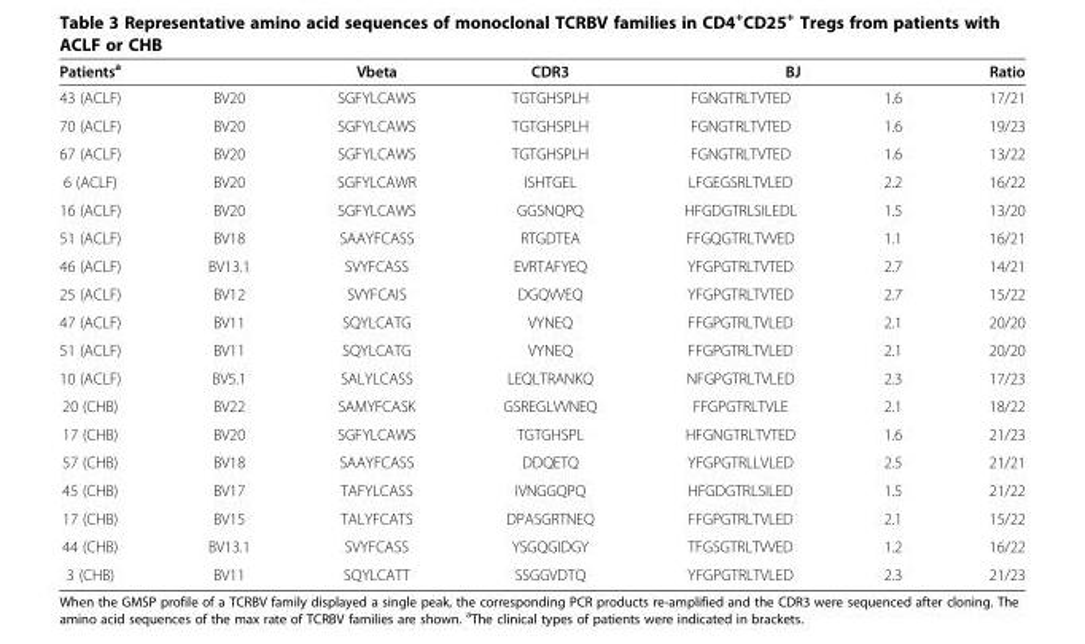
<table><thead><tr><td rowspan="2">Patients<sup>a</sup> 43 (ACLF)</td><td rowspan="2">BV20</td><td rowspan="2">Vbeta SGFYLCAWS</td><td rowspan="2">CDR3 TGTGHSPLH</td><td colspan="2">BJ</td><td rowspan="2">Ratio 17/21</td></tr><tr><td>FGNGTRLTVTED</td><td>1.6</td></tr></thead><tbody><tr><td>70 (ACLF)</td><td>BV20</td><td>SGFYLCAWS</td><td>TGTGHSPLH</td><td>FGNGTRLTVTED</td><td>1.6</td><td>19/23</td></tr><tr><td>67 (ACLF)</td><td>BV20</td><td>SGFYLCAWS</td><td>TGTGHSPLH</td><td>FGNGTRLTVTED</td><td>1.6</td><td>13/22</td></tr><tr><td>6 (ACLF)</td><td>BV20</td><td>SGFYLCAWR</td><td>ISHTGEL</td><td>LFGEGSRLTVLED</td><td>2.2</td><td>16/22</td></tr><tr><td>16 (ACLF)</td><td>BV20</td><td>SGFYLCAWS</td><td>GGSNQPQ</td><td>HFGDGTRLSILEDL</td><td>1.5</td><td>13/20</td></tr><tr><td>51 (ACLF)</td><td>BV18</td><td>SAAYFCASS</td><td>RTGDTEA</td><td>FFGQGTRLTVVED</td><td>1.1</td><td>16/21</td></tr><tr><td>46 (ACLF)</td><td>BV13.1</td><td>SVYFCASS</td><td>EVRTAFYEQ</td><td>YFGPGTRLTVTED</td><td>2.7</td><td>14/21</td></tr><tr><td>25 (ACLF)</td><td>BV12</td><td>SVYFCAIS</td><td>DGQVVEQ</td><td>YFGPGTRLTVTED</td><td>2.7</td><td>15/22</td></tr><tr><td>47 (ACLF)</td><td>BV11</td><td>SQYLCATG</td><td>VYNEQ</td><td>FFGPGTRLTVLED</td><td>2.1</td><td>20/20</td></tr><tr><td>51 (ACLF)</td><td>BV11</td><td>SQYLCATG</td><td>VYNEQ</td><td>FFGPGTRLTVLED</td><td>2.1</td><td>20/20</td></tr><tr><td>10 (ACLF)</td><td>BV5.1</td><td>SALYLCASS</td><td>LEQLTRANKQ</td><td>NFGPGTRLTVLED</td><td>2.3</td><td>17/23</td></tr><tr><td>20 (CHB)</td><td>BV22</td><td>SAMYFCASK</td><td>GSREGLVVNEQ</td><td>FFGPGTRLTVLE</td><td>2.1</td><td>18/22</td></tr><tr><td>17 (CHB)</td><td>BV20</td><td>SGFYLCAWS</td><td>TGTGHSPL</td><td>HFGNGTRLTVTED</td><td>1.6</td><td>21/23</td></tr><tr><td>57 (CHB)</td><td>BV18</td><td>SAAYFCASS</td><td>DDQETQ</td><td>YFGPGTRLLVLED</td><td>2.5</td><td>21/21</td></tr><tr><td>45 (CHB)</td><td>BV17</td><td>TAFYLCASS</td><td>IVNGGQPQ</td><td>HFGDGTRLSILED</td><td>1.5</td><td>21/22</td></tr><tr><td>17 (CHB)</td><td>BV15</td><td>TALYFCATS</td><td>DPASGRTNEQ</td><td>FFGPGTRLTVLED</td><td>2.1</td><td>15/22</td></tr><tr><td>44 (CHB)</td><td>BV13.1</td><td>SVYFCASS</td><td>YSGQGIDGY</td><td>TFGSGTRLTVVED</td><td>1.2</td><td>16/22</td></tr><tr><td>3 (CHB)</td><td>BV11</td><td>SQYLCATT</td><td>SSGGVDTQ</td><td>YFGPGTRLTVLED</td><td>2.3</td><td>21/23</td></tr></tbody></table>